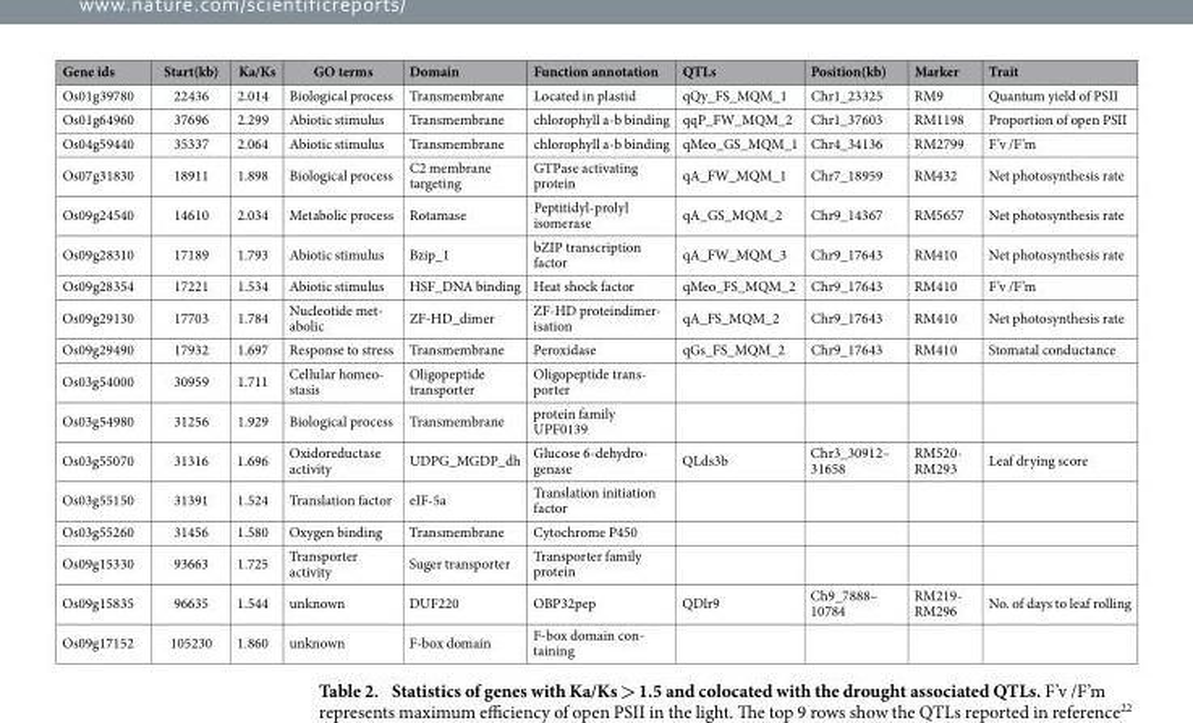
<table><thead><tr><td>Gene ids</td><td>Start(kb)</td><td>Ka/Ks</td><td>GO terms</td><td>Domain</td><td>Function annotation</td><td>QTLs</td><td>Position(kb)</td><td>Marker</td><td>Trait</td></tr></thead><tbody><tr><td>Os01g39780</td><td>22436</td><td>2.014</td><td>Biological process</td><td>Transmembrane</td><td>Located in plastid</td><td>qQy_FS_MQM_1</td><td>Chr1_23325</td><td>RM9</td><td>Quantum yield of PSII</td></tr><tr><td>Os01g64960</td><td>37696</td><td>2.299</td><td>Abiotic stimulus</td><td>Transmembrane</td><td>chlorophyll a-b binding</td><td>qqP_FW_MQM_2</td><td>Chr1_37603</td><td>RM1198</td><td>Proportion of open PSII</td></tr><tr><td>Os04g59440</td><td>35337</td><td>2.064</td><td>Abiotic stimulus</td><td>Transmembrane</td><td>chlorophyll a-b binding</td><td>qMeo_GS_MQM_1</td><td>Chr4_34136</td><td>RM2799</td><td>F’v /F’m</td></tr><tr><td>Os07g31830</td><td>18911</td><td>1.898</td><td>Biological process</td><td>C2 membrane targeting</td><td>GTPase activating protein</td><td>qA_FW_MQM_1</td><td>Chr7_18959</td><td>RM432</td><td>Net photosynthesis rate</td></tr><tr><td>Os09g24540</td><td>14610</td><td>2.034</td><td>Metabolic process</td><td>Rotamase</td><td>Peptitidyl-prolyl isomerase</td><td>qA_GS_MQM_2</td><td>Chr9_14367</td><td>RM5657</td><td>Net photosynthesis rate</td></tr><tr><td>Os09g28310</td><td>17189</td><td>1.793</td><td>Abiotic stimulus</td><td>Bzip_1</td><td>bZIP transcription factor</td><td>qA_FW_MQM_3</td><td>Chr9_17643</td><td>RM410</td><td>Net photosynthesis rate</td></tr><tr><td>Os09g28354</td><td>17221</td><td>1.534</td><td>Abiotic stimulus</td><td>HSF_DNA binding</td><td>Heat shock factor</td><td>qMeo_FS_MQM_2</td><td>Chr9_17643</td><td>RM410</td><td>F’v /F’m</td></tr><tr><td>Os09g29130</td><td>17703</td><td>1.784</td><td>Nucleotide met- abolic</td><td>ZF-HD_dimer</td><td>ZF-HD proteindimer- isation</td><td>qA_FS_MQM_2</td><td>Chr9_17643</td><td>RM410</td><td>Net photosynthesis rate</td></tr><tr><td>Os09g29490</td><td>17932</td><td>1.697</td><td>Response to stress</td><td>Transmembrane</td><td>Peroxidase</td><td>qGs_FS_MQM_2</td><td>Chr9_17643</td><td>RM410</td><td>Stomatal conductance</td></tr><tr><td>Os03g54000</td><td>30959</td><td>1.711</td><td>Cellular homeo- stasis</td><td>Oligopeptide transporter</td><td>Oligopeptide trans- porter</td><td></td><td></td><td></td><td></td></tr><tr><td>Os03g54980</td><td>31256</td><td>1.929</td><td>Biological process</td><td>Transmembrane</td><td>protein family UPF0139</td><td></td><td></td><td></td><td></td></tr><tr><td>Os03g55070</td><td>31316</td><td>1.696</td><td>Oxidoreductase activity</td><td>UDPG_MGDP_dh</td><td>Glucose 6-dehydro- genase</td><td>QLds3b</td><td>Chr3_30912– 31658</td><td>RM520- RM293</td><td>Leaf drying score</td></tr><tr><td>Os03g55150</td><td>31391</td><td>1.524</td><td>Translation factor</td><td>eIF-5a</td><td>Translation initiation factor</td><td></td><td></td><td></td><td></td></tr><tr><td>Os03g55260</td><td>31456</td><td>1.580</td><td>Oxygen binding</td><td>Transmembrane</td><td>Cytochrome P450</td><td></td><td></td><td></td><td></td></tr><tr><td>Os09g15330</td><td>93663</td><td>1.725</td><td>Transporter activity</td><td>Suger transporter</td><td>Transporter family protein</td><td></td><td></td><td></td><td></td></tr><tr><td>Os09g15835</td><td>96635</td><td>1.544</td><td>unknown</td><td>DUF220</td><td>OBP32pep</td><td>QDlr9</td><td>Ch9_7888– 10784</td><td>RM219- RM296</td><td>No. of days to leaf rolling</td></tr><tr><td>Os09g17152</td><td>105230</td><td>1.860</td><td>unknown</td><td>F-box domain</td><td>F-box domain con- taining</td><td></td><td></td><td></td><td></td></tr></tbody></table>